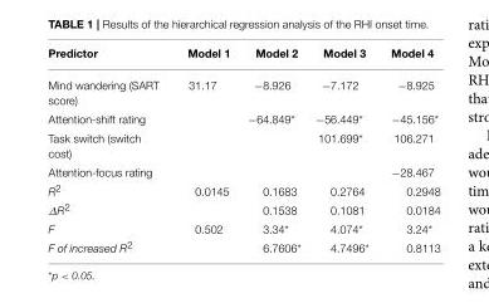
<table><thead><tr><td>Predictor</td><td>Model 1</td><td>Model 2</td><td>Model 3</td><td>Model 4</td></tr></thead><tbody><tr><td>Mind wandering (SART score)</td><td>31.17</td><td>−8.926</td><td>−7.172</td><td>−8.925</td></tr><tr><td>Attention-shift rating</td><td></td><td>−64.849*</td><td>−56.449*</td><td>−45.156*</td></tr><tr><td>Task switch (switch cost)</td><td></td><td></td><td>101.699*</td><td>106.271</td></tr><tr><td>Attention-focus rating</td><td></td><td></td><td></td><td>−28.467</td></tr><tr><td>R<sup>2</sup></td><td>0.0145</td><td>0.1683</td><td>0.2764</td><td>0.2948</td></tr><tr><td>∆R2</td><td></td><td>0.1538</td><td>0.1081</td><td>0.0184</td></tr><tr><td>F</td><td>0.502</td><td>3.34*</td><td>4.074*</td><td>3.24*</td></tr><tr><td>F of increased R<sup>2</sup></td><td></td><td>6.7606*</td><td>4.7496*</td><td>0.8113</td></tr></tbody></table>